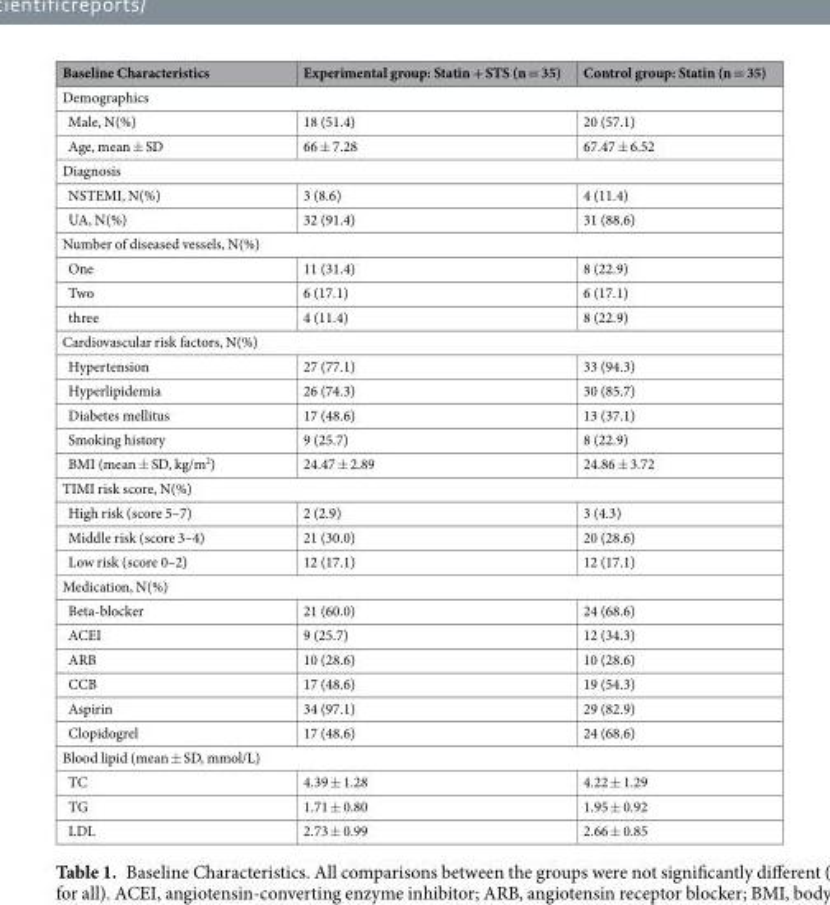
<table><thead><tr><td>Baseline Characteristics</td><td>Experimental group: Statin + STS (n = 35)</td><td>Control group: Statin (n = 35)</td></tr></thead><tbody><tr><td colspan="3">Demographics</td></tr><tr><td>Male, N(%)</td><td>18 (51.4)</td><td>20 (57.1)</td></tr><tr><td>Age, mean ± SD</td><td>66 ± 7.28</td><td>67.47 ± 6.52</td></tr><tr><td colspan="3">Diagnosis</td></tr><tr><td>NSTEMI, N(%)</td><td>3 (8.6)</td><td>4 (11.4)</td></tr><tr><td>UA, N(%)</td><td>32 (91.4)</td><td>31 (88.6)</td></tr><tr><td colspan="3">Number of diseased vessels, N(%)</td></tr><tr><td>One</td><td>11 (31.4)</td><td>8 (22.9)</td></tr><tr><td>Two</td><td>6 (17.1)</td><td>6 (17.1)</td></tr><tr><td>three</td><td>4 (11.4)</td><td>8 (22.9)</td></tr><tr><td colspan="3">Cardiovascular risk factors, N(%)</td></tr><tr><td>Hypertension</td><td>27 (77.1)</td><td>33 (94.3)</td></tr><tr><td>Hyperlipidemia</td><td>26 (74.3)</td><td>30 (85.7)</td></tr><tr><td>Diabetes mellitus</td><td>17 (48.6)</td><td>13 (37.1)</td></tr><tr><td>Smoking history</td><td>9 (25.7)</td><td>8 (22.9)</td></tr><tr><td>BMI (mean ± SD, kg/m<sup>2</sup>)</td><td>24.47 ± 2.89</td><td>24.86 ± 3.72</td></tr><tr><td colspan="3">TIMI risk score, N(%)</td></tr><tr><td>High risk (score 5–7)</td><td>2 (2.9)</td><td>3 (4.3)</td></tr><tr><td>Middle risk (score 3–4)</td><td>21 (30.0)</td><td>20 (28.6)</td></tr><tr><td>Low risk (score 0–2)</td><td>12 (17.1)</td><td>12 (17.1)</td></tr><tr><td colspan="3">Medication, N(%)</td></tr><tr><td>Beta-blocker</td><td>21 (60.0)</td><td>24 (68.6)</td></tr><tr><td>ACEI</td><td>9 (25.7)</td><td>12 (34.3)</td></tr><tr><td>ARB</td><td>10 (28.6)</td><td>10 (28.6)</td></tr><tr><td>CCB</td><td>17 (48.6)</td><td>19 (54.3)</td></tr><tr><td>Aspirin</td><td>34 (97.1)</td><td>29 (82.9)</td></tr><tr><td>Clopidogrel</td><td>17 (48.6)</td><td>24 (68.6)</td></tr><tr><td colspan="3">Blood lipid (mean ± SD, mmol/L)</td></tr><tr><td>TC</td><td>4.39 ± 1.28</td><td>4.22 ± 1.29</td></tr><tr><td>TG</td><td>1.71 ± 0.80</td><td>1.95 ± 0.92</td></tr><tr><td>LDL</td><td>2.73 ± 0.99</td><td>2.66 ± 0.85</td></tr></tbody></table>